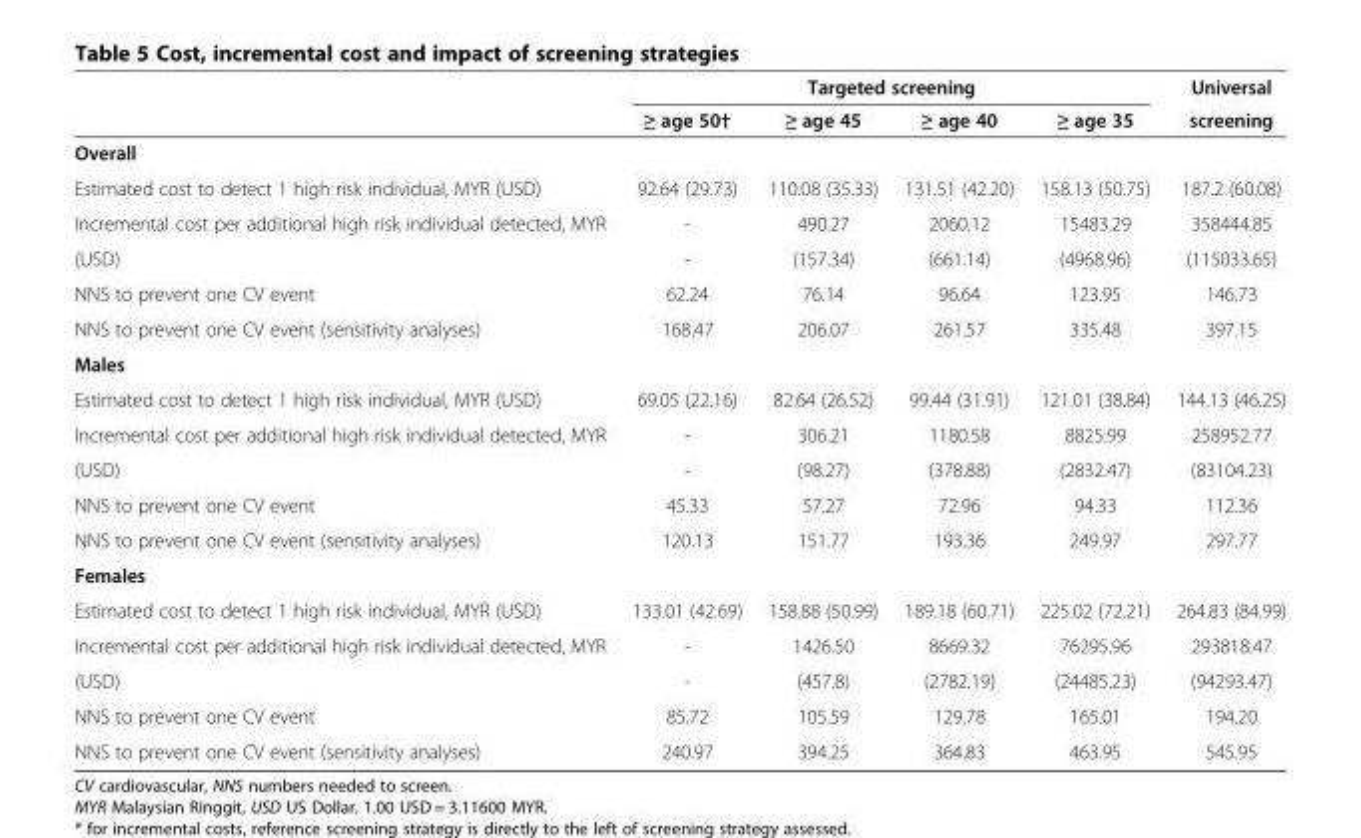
<table><thead><tr><td rowspan="2"></td><td colspan="4">Targeted screening</td><td rowspan="2">Universal screening</td></tr><tr><td>≥ age 50†</td><td>≥ age 45</td><td>≥ age 40</td><td>≥ age 35</td></tr></thead><tbody><tr><td colspan="6">Overall</td></tr><tr><td>Estimated cost to detect 1 high risk individual, MYR (USD)</td><td>92.64 (29.73)</td><td>110.08 (35.33)</td><td>131.51 (42.20)</td><td>158.13 (50.75)</td><td>187.2 (60.08)</td></tr><tr><td>Incremental cost per additional high risk individual detected, MYR</td><td>-</td><td>490.27</td><td>2060.12</td><td>15483.29</td><td>358444.85</td></tr><tr><td>(USD)</td><td>-</td><td>(157.34)</td><td>(661.14)</td><td>(4968.96)</td><td>(115033.65)</td></tr><tr><td>NNS to prevent one CV event</td><td>62.24</td><td>76.14</td><td>96.64</td><td>123.95</td><td>146.73</td></tr><tr><td>NNS to prevent one CV event (sensitivity analyses)</td><td>168.47</td><td>206.07</td><td>261.57</td><td>335.48</td><td>397.15</td></tr><tr><td colspan="6">Males</td></tr><tr><td>Estimated cost to detect 1 high risk individual, MYR (USD)</td><td>69.05 (22.16)</td><td>82.64 (26.52)</td><td>99.44 (31.91)</td><td>121.01 (38.84)</td><td>144.13 (46.25)</td></tr><tr><td>Incremental cost per additional high risk individual detected, MYR</td><td>-</td><td>306.21</td><td>1180.58</td><td>8825.99</td><td>258952.77</td></tr><tr><td>(USD)</td><td>-</td><td>(98.27)</td><td>(378.88)</td><td>(2832.47)</td><td>(83104.23)</td></tr><tr><td>NNS to prevent one CV event</td><td>45.33</td><td>57.27</td><td>72.96</td><td>94.33</td><td>112.36</td></tr><tr><td>NNS to prevent one CV event (sensitivity analyses)</td><td>120.13</td><td>151.77</td><td>193.36</td><td>249.97</td><td>297.77</td></tr><tr><td colspan="6">Females</td></tr><tr><td>Estimated cost to detect 1 high risk individual, MYR (USD)</td><td>133.01 (42.69)</td><td>158.88 (50.99)</td><td>189.18 (60.71)</td><td>225.02 (72.21)</td><td>264.83 (84.99)</td></tr><tr><td>Incremental cost per additional high risk individual detected, MYR</td><td>-</td><td>1426.50</td><td>8669.32</td><td>76295.96</td><td>293818.47</td></tr><tr><td>(USD)</td><td>-</td><td>(457.8)</td><td>(2782.19)</td><td>(24485.23)</td><td>(94293.47)</td></tr><tr><td>NNS to prevent one CV event</td><td>85.72</td><td>105.59</td><td>129.78</td><td>165.01</td><td>194.20</td></tr><tr><td>NNS to prevent one CV event (sensitivity analyses)</td><td>240.97</td><td>394.25</td><td>364.83</td><td>463.95</td><td>545.95</td></tr></tbody></table>